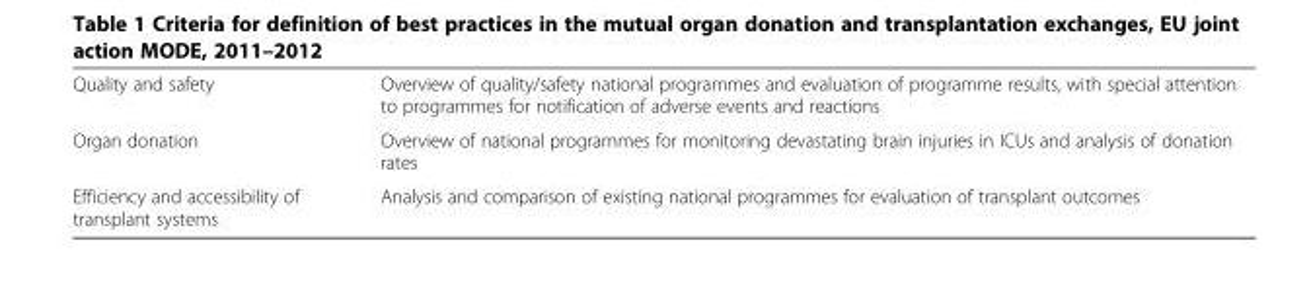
<table><tbody><tr><td>Quality and safety</td><td>Overview of quality/safety national programmes and evaluation of programme results, with special attention to programmes for notification of adverse events and reactions</td></tr><tr><td>Organ donation</td><td>Overview of national programmes for monitoring devastating brain injuries in ICUs and analysis of donation rates</td></tr><tr><td>Efficiency and accessibility of transplant systems</td><td>Analysis and comparison of existing national programmes for evaluation of transplant outcomes</td></tr></tbody></table>